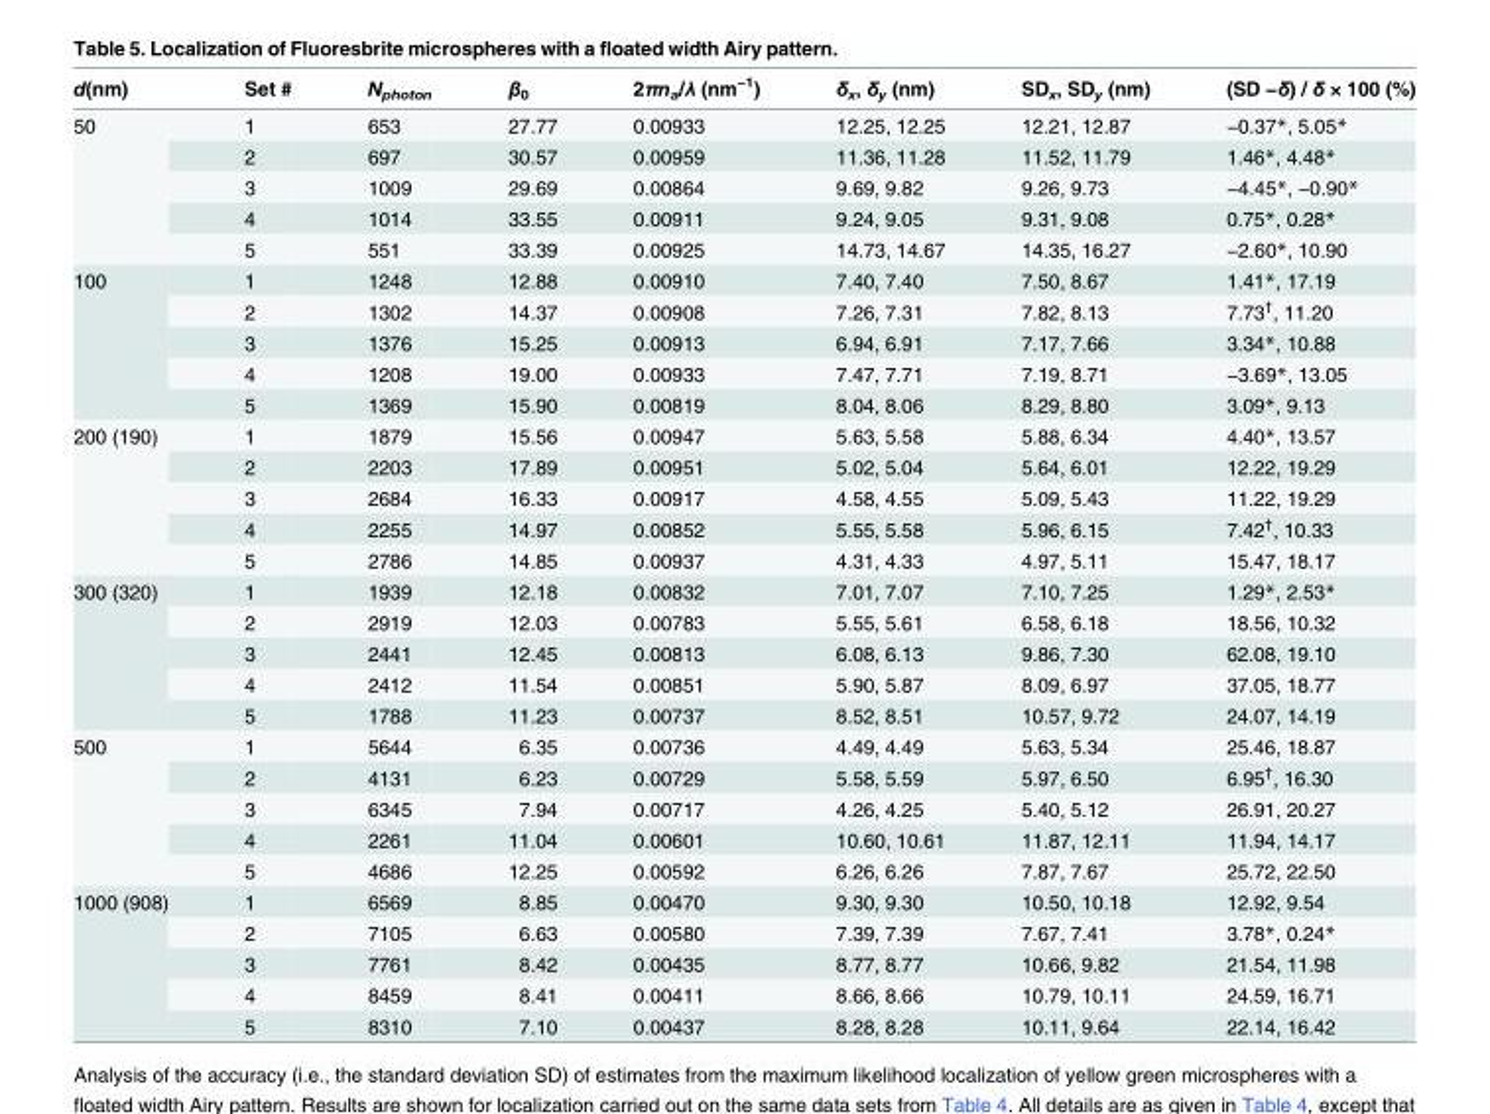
<table><thead><tr><td>d(nm)</td><td>Set #</td><td>N<sub>photon</sub></td><td>β<sub>0</sub></td><td>2πn<sub>a</sub>/λ (nm<sup>−1</sup>)</td><td>δ<sub>x</sub>, δ<sub>y</sub> (nm)</td><td>SD<sub>x</sub>, SD<sub>y</sub> (nm)</td><td>(SD −δ) / δ × 100 (%)</td></tr></thead><tbody><tr><td rowspan="5">50</td><td>1</td><td>653</td><td>27.77</td><td>0.00933</td><td>12.25, 12.25</td><td>12.21, 12.87</td><td>−0.37*, 5.05*</td></tr><tr><td>2</td><td>697</td><td>30.57</td><td>0.00959</td><td>11.36, 11.28</td><td>11.52, 11.79</td><td>1.46*, 4.48*</td></tr><tr><td>3</td><td>1009</td><td>29.69</td><td>0.00864</td><td>9.69, 9.82</td><td>9.26, 9.73</td><td>−4.45*, −0.90*</td></tr><tr><td>4</td><td>1014</td><td>33.55</td><td>0.00911</td><td>9.24, 9.05</td><td>9.31, 9.08</td><td>0.75*, 0.28*</td></tr><tr><td>5</td><td>551</td><td>33.39</td><td>0.00925</td><td>14.73, 14.67</td><td>14.35, 16.27</td><td>−2.60*, 10.90</td></tr><tr><td rowspan="5">100</td><td>1</td><td>1248</td><td>12.88</td><td>0.00910</td><td>7.40, 7.40</td><td>7.50, 8.67</td><td>1.41*, 17.19</td></tr><tr><td>2</td><td>1302</td><td>14.37</td><td>0.00908</td><td>7.26, 7.31</td><td>7.82, 8.13</td><td>7.73<sup>†</sup>, 11.20</td></tr><tr><td>3</td><td>1376</td><td>15.25</td><td>0.00913</td><td>6.94, 6.91</td><td>7.17, 7.66</td><td>3.34*, 10.88</td></tr><tr><td>4</td><td>1208</td><td>19.00</td><td>0.00933</td><td>7.47, 7.71</td><td>7.19, 8.71</td><td>−3.69*, 13.05</td></tr><tr><td>5</td><td>1369</td><td>15.90</td><td>0.00819</td><td>8.04, 8.06</td><td>8.29, 8.80</td><td>3.09*, 9.13</td></tr><tr><td rowspan="5">200 (190)</td><td>1</td><td>1879</td><td>15.56</td><td>0.00947</td><td>5.63, 5.58</td><td>5.88, 6.34</td><td>4.40*, 13.57</td></tr><tr><td>2</td><td>2203</td><td>17.89</td><td>0.00951</td><td>5.02, 5.04</td><td>5.64, 6.01</td><td>12.22, 19.29</td></tr><tr><td>3</td><td>2684</td><td>16.33</td><td>0.00917</td><td>4.58, 4.55</td><td>5.09, 5.43</td><td>11.22, 19.29</td></tr><tr><td>4</td><td>2255</td><td>14.97</td><td>0.00852</td><td>5.55, 5.58</td><td>5.96, 6.15</td><td>7.42<sup>†</sup>, 10.33</td></tr><tr><td>5</td><td>2786</td><td>14.85</td><td>0.00937</td><td>4.31, 4.33</td><td>4.97, 5.11</td><td>15.47, 18.17</td></tr><tr><td rowspan="5">300 (320)</td><td>1</td><td>1939</td><td>12.18</td><td>0.00832</td><td>7.01, 7.07</td><td>7.10, 7.25</td><td>1.29*, 2.53*</td></tr><tr><td>2</td><td>2919</td><td>12.03</td><td>0.00783</td><td>5.55, 5.61</td><td>6.58, 6.18</td><td>18.56, 10.32</td></tr><tr><td>3</td><td>2441</td><td>12.45</td><td>0.00813</td><td>6.08, 6.13</td><td>9.86, 7.30</td><td>62.08, 19.10</td></tr><tr><td>4</td><td>2412</td><td>11.54</td><td>0.00851</td><td>5.90, 5.87</td><td>8.09, 6.97</td><td>37.05, 18.77</td></tr><tr><td>5</td><td>1788</td><td>11.23</td><td>0.00737</td><td>8.52, 8.51</td><td>10.57, 9.72</td><td>24.07, 14.19</td></tr><tr><td rowspan="5">500</td><td>1</td><td>5644</td><td>6.35</td><td>0.00736</td><td>4.49, 4.49</td><td>5.63, 5.34</td><td>25.46, 18.87</td></tr><tr><td>2</td><td>4131</td><td>6.23</td><td>0.00729</td><td>5.58, 5.59</td><td>5.97, 6.50</td><td>6.95<sup>†</sup>, 16.30</td></tr><tr><td>3</td><td>6345</td><td>7.94</td><td>0.00717</td><td>4.26, 4.25</td><td>5.40, 5.12</td><td>26.91, 20.27</td></tr><tr><td>4</td><td>2261</td><td>11.04</td><td>0.00601</td><td>10.60, 10.61</td><td>11.87, 12.11</td><td>11.94, 14.17</td></tr><tr><td>5</td><td>4686</td><td>12.25</td><td>0.00592</td><td>6.26, 6.26</td><td>7.87, 7.67</td><td>25.72, 22.50</td></tr><tr><td rowspan="5">1000 (908)</td><td>1</td><td>6569</td><td>8.85</td><td>0.00470</td><td>9.30, 9.30</td><td>10.50, 10.18</td><td>12.92, 9.54</td></tr><tr><td>2</td><td>7105</td><td>6.63</td><td>0.00580</td><td>7.39, 7.39</td><td>7.67, 7.41</td><td>3.78*, 0.24*</td></tr><tr><td>3</td><td>7761</td><td>8.42</td><td>0.00435</td><td>8.77, 8.77</td><td>10.66, 9.82</td><td>21.54, 11.98</td></tr><tr><td>4</td><td>8459</td><td>8.41</td><td>0.00411</td><td>8.66, 8.66</td><td>10.79, 10.11</td><td>24.59, 16.71</td></tr><tr><td>5</td><td>8310</td><td>7.10</td><td>0.00437</td><td>8.28, 8.28</td><td>10.11, 9.64</td><td>22.14, 16.42</td></tr></tbody></table>